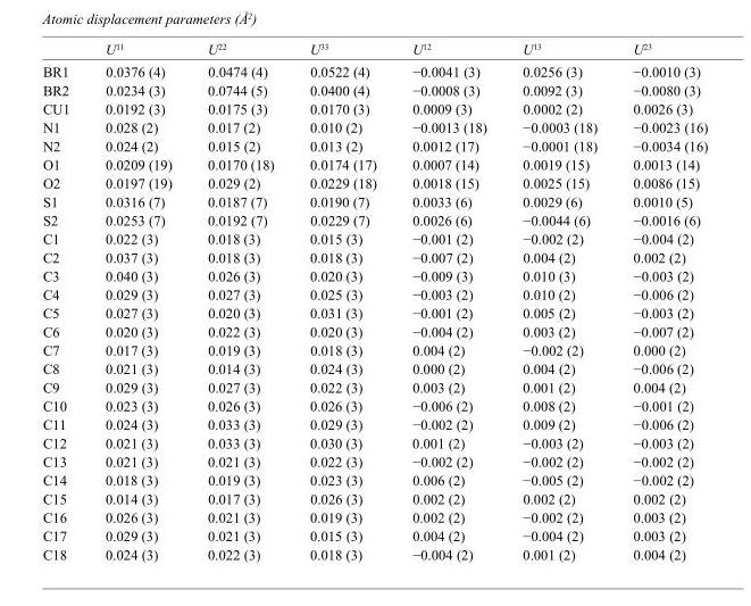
<table><thead><tr><td></td><td>U<sup>11</sup></td><td>U<sup>22</sup></td><td>U<sup>33</sup></td><td>U<sup>12</sup></td><td>U<sup>13</sup></td><td>U<sup>23</sup></td></tr></thead><tbody><tr><td>BR1</td><td>0.0376 (4)</td><td>0.0474 (4)</td><td>0.0522 (4)</td><td>−0.0041 (3)</td><td>0.0256 (3)</td><td>−0.0010 (3)</td></tr><tr><td>BR2</td><td>0.0234 (3)</td><td>0.0744 (5)</td><td>0.0400 (4)</td><td>−0.0008 (3)</td><td>0.0092 (3)</td><td>−0.0080 (3)</td></tr><tr><td>CU1</td><td>0.0192 (3)</td><td>0.0175 (3)</td><td>0.0170 (3)</td><td>0.0009 (3)</td><td>0.0002 (2)</td><td>0.0026 (3)</td></tr><tr><td>N1</td><td>0.028 (2)</td><td>0.017 (2)</td><td>0.010 (2)</td><td>−0.0013 (18)</td><td>−0.0003 (18)</td><td>−0.0023 (16)</td></tr><tr><td>N2</td><td>0.024 (2)</td><td>0.015 (2)</td><td>0.013 (2)</td><td>0.0012 (17)</td><td>−0.0001 (18)</td><td>−0.0034 (16)</td></tr><tr><td>O1</td><td>0.0209 (19)</td><td>0.0170 (18)</td><td>0.0174 (17)</td><td>0.0007 (14)</td><td>0.0019 (15)</td><td>0.0013 (14)</td></tr><tr><td>O2</td><td>0.0197 (19)</td><td>0.029 (2)</td><td>0.0229 (18)</td><td>0.0018 (15)</td><td>0.0025 (15)</td><td>0.0086 (15)</td></tr><tr><td>S1</td><td>0.0316 (7)</td><td>0.0187 (7)</td><td>0.0190 (7)</td><td>0.0033 (6)</td><td>0.0029 (6)</td><td>0.0010 (5)</td></tr><tr><td>S2</td><td>0.0253 (7)</td><td>0.0192 (7)</td><td>0.0229 (7)</td><td>0.0026 (6)</td><td>−0.0044 (6)</td><td>−0.0016 (6)</td></tr><tr><td>C1</td><td>0.022 (3)</td><td>0.018 (3)</td><td>0.015 (3)</td><td>−0.001 (2)</td><td>−0.002 (2)</td><td>−0.004 (2)</td></tr><tr><td>C2</td><td>0.037 (3)</td><td>0.018 (3)</td><td>0.018 (3)</td><td>−0.007 (2)</td><td>0.004 (2)</td><td>0.002 (2)</td></tr><tr><td>C3</td><td>0.040 (3)</td><td>0.026 (3)</td><td>0.020 (3)</td><td>−0.009 (3)</td><td>0.010 (3)</td><td>−0.003 (2)</td></tr><tr><td>C4</td><td>0.029 (3)</td><td>0.027 (3)</td><td>0.025 (3)</td><td>−0.003 (2)</td><td>0.010 (2)</td><td>−0.006 (2)</td></tr><tr><td>C5</td><td>0.027 (3)</td><td>0.020 (3)</td><td>0.031 (3)</td><td>−0.001 (2)</td><td>0.005 (2)</td><td>−0.003 (2)</td></tr><tr><td>C6</td><td>0.020 (3)</td><td>0.022 (3)</td><td>0.020 (3)</td><td>−0.004 (2)</td><td>0.003 (2)</td><td>−0.007 (2)</td></tr><tr><td>C7</td><td>0.017 (3)</td><td>0.019 (3)</td><td>0.018 (3)</td><td>0.004 (2)</td><td>−0.002 (2)</td><td>0.000 (2)</td></tr><tr><td>C8</td><td>0.021 (3)</td><td>0.014 (3)</td><td>0.024 (3)</td><td>0.000 (2)</td><td>0.004 (2)</td><td>−0.006 (2)</td></tr><tr><td>C9</td><td>0.029 (3)</td><td>0.027 (3)</td><td>0.022 (3)</td><td>0.003 (2)</td><td>0.001 (2)</td><td>0.004 (2)</td></tr><tr><td>C10</td><td>0.023 (3)</td><td>0.026 (3)</td><td>0.026 (3)</td><td>−0.006 (2)</td><td>0.008 (2)</td><td>−0.001 (2)</td></tr><tr><td>C11</td><td>0.024 (3)</td><td>0.033 (3)</td><td>0.029 (3)</td><td>−0.002 (2)</td><td>0.009 (2)</td><td>−0.006 (2)</td></tr><tr><td>C12</td><td>0.021 (3)</td><td>0.033 (3)</td><td>0.030 (3)</td><td>0.001 (2)</td><td>−0.003 (2)</td><td>−0.003 (2)</td></tr><tr><td>C13</td><td>0.021 (3)</td><td>0.021 (3)</td><td>0.022 (3)</td><td>−0.002 (2)</td><td>−0.002 (2)</td><td>−0.002 (2)</td></tr><tr><td>C14</td><td>0.018 (3)</td><td>0.019 (3)</td><td>0.023 (3)</td><td>0.006 (2)</td><td>−0.005 (2)</td><td>−0.002 (2)</td></tr><tr><td>C15</td><td>0.014 (3)</td><td>0.017 (3)</td><td>0.026 (3)</td><td>0.002 (2)</td><td>0.002 (2)</td><td>0.002 (2)</td></tr><tr><td>C16</td><td>0.026 (3)</td><td>0.021 (3)</td><td>0.019 (3)</td><td>0.002 (2)</td><td>−0.002 (2)</td><td>0.003 (2)</td></tr><tr><td>C17</td><td>0.029 (3)</td><td>0.021 (3)</td><td>0.015 (3)</td><td>0.004 (2)</td><td>−0.004 (2)</td><td>0.003 (2)</td></tr><tr><td>C18</td><td>0.024 (3)</td><td>0.022 (3)</td><td>0.018 (3)</td><td>−0.004 (2)</td><td>0.001 (2)</td><td>0.004 (2)</td></tr></tbody></table>